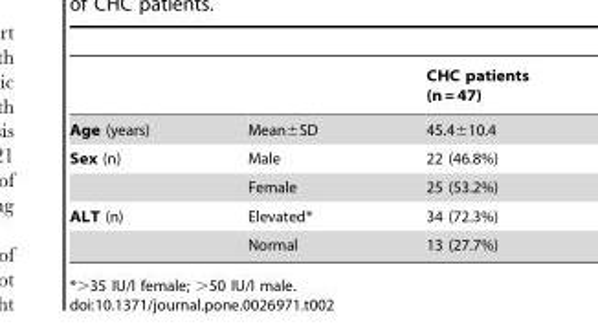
<table><thead><tr><td></td><td></td><td>CHC patients (n = 47)</td></tr></thead><tbody><tr><td>Age (years)</td><td>Mean±SD</td><td>45.4±10.4</td></tr><tr><td rowspan="2">Sex (n)</td><td>Male</td><td>22 (46.8%)</td></tr><tr><td>Female</td><td>25 (53.2%)</td></tr><tr><td rowspan="2">ALT (n)</td><td>Elevated*</td><td>34 (72.3%)</td></tr><tr><td>Normal</td><td>13 (27.7%)</td></tr></tbody></table>